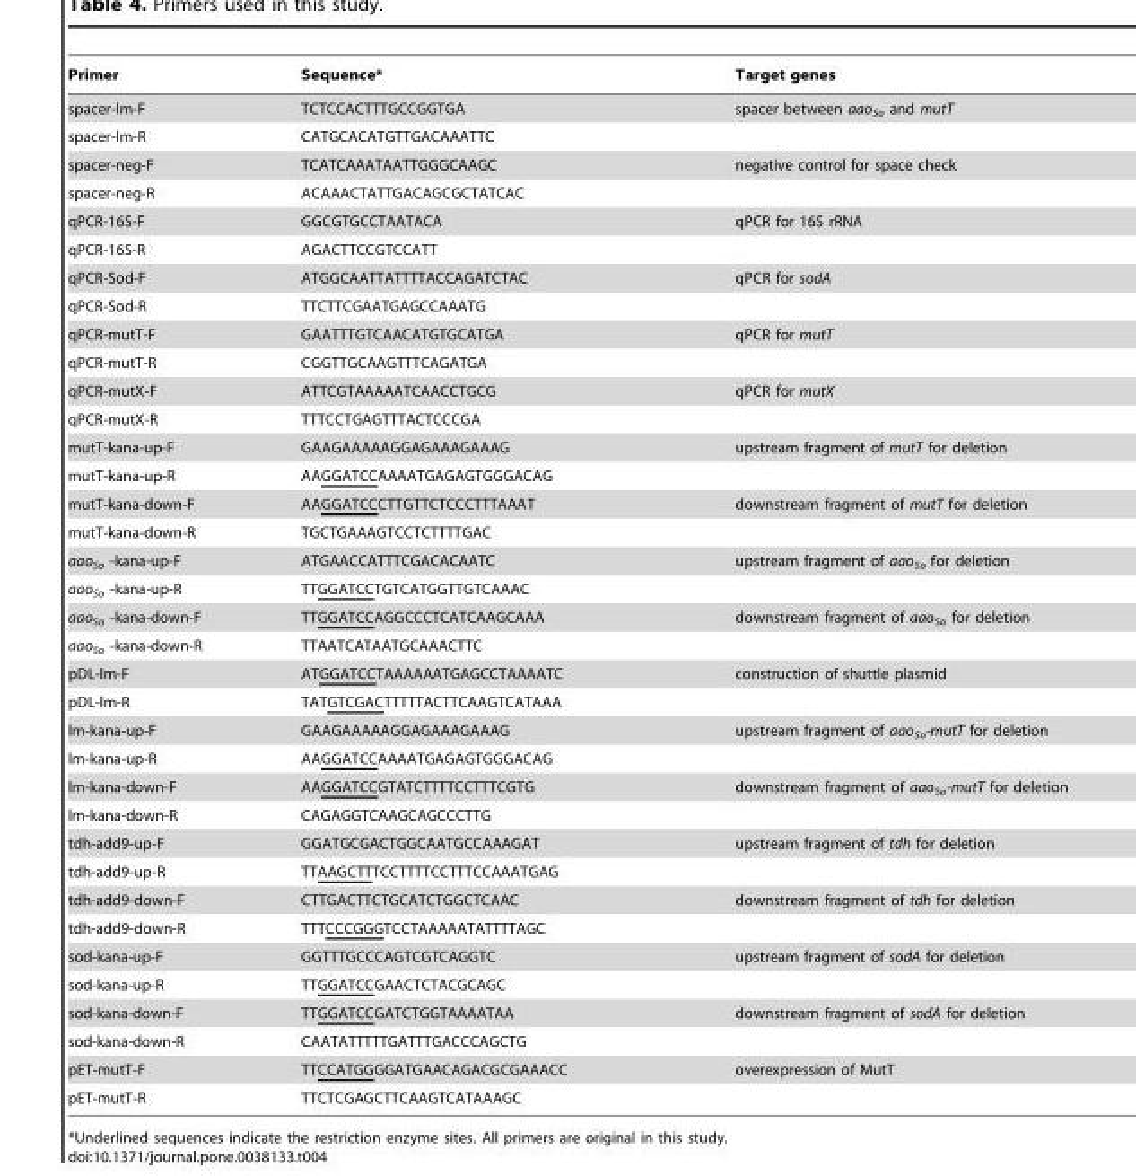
<table><thead><tr><td>Primer</td><td>Sequence*</td><td>Target genes</td></tr></thead><tbody><tr><td>spacer-lm-F</td><td>TCTCCACTTTGCCGGTGA</td><td>spacer between aao<sub>So</sub> and mutT</td></tr><tr><td>spacer-lm-R</td><td>CATGCACATGTTGACAAATTC</td><td></td></tr><tr><td>spacer-neg-F</td><td>TCATCAAATAATTGGGCAAGC</td><td>negative control for space check</td></tr><tr><td>spacer-neg-R</td><td>ACAAACTATTGACAGCGCTATCAC</td><td></td></tr><tr><td>qPCR-16S-F</td><td>GGCGTGCCTAATACA</td><td>qPCR for 16S rRNA</td></tr><tr><td>qPCR-16S-R</td><td>AGACTTCCGTCCATT</td><td></td></tr><tr><td>qPCR-Sod-F</td><td>ATGGCAATTATTTTACCAGATCTAC</td><td>qPCR for sodA</td></tr><tr><td>qPCR-Sod-R</td><td>TTCTTCGAATGAGCCAAATG</td><td></td></tr><tr><td>qPCR-mutT-F</td><td>GAATTTGTCAACATGTGCATGA</td><td>qPCR for mutT</td></tr><tr><td>qPCR-mutT-R</td><td>CGGTTGCAAGTTTCAGATGA</td><td></td></tr><tr><td>qPCR-mutX-F</td><td>ATTCGTAAAAATCAACCTGCG</td><td>qPCR for mutX</td></tr><tr><td>qPCR-mutX-R</td><td>TTTCCTGAGTTTACTCCCGA</td><td></td></tr><tr><td>mutT-kana-up-F</td><td>GAAGAAAAAGGAGAAAGAAAG</td><td>upstream fragment of mutT for deletion</td></tr><tr><td>mutT-kana-up-R</td><td>AAGGATCCAAAATGAGAGTGGGACAG</td><td></td></tr><tr><td>mutT-kana-down-F</td><td>AAGGATCCCTTGTTCTCCCTTTAAAT</td><td>downstream fragment of mutT for deletion</td></tr><tr><td>mutT-kana-down-R</td><td>TGCTGAAAGTCCTCTTTTGAC</td><td></td></tr><tr><td>aao<sub>So</sub> -kana-up-F</td><td>ATGAACCATTTCGACACAATC</td><td>upstream fragment of aao<sub>So</sub> for deletion</td></tr><tr><td>aao<sub>So</sub> -kana-up-R</td><td>TTGGATCCTGTCATGGTTGTCAAAC</td><td></td></tr><tr><td>aao<sub>So</sub> -kana-down-F</td><td>TTGGATCCAGGCCCTCATCAAGCAAA</td><td>downstream fragment of aao<sub>So</sub> for deletion</td></tr><tr><td>aao<sub>So</sub> -kana-down-R</td><td>TTAATCATAATGCAAACTTC</td><td></td></tr><tr><td>pDL-lm-F</td><td>ATGGATCCTAAAAAATGAGCCTAAAATC</td><td>construction of shuttle plasmid</td></tr><tr><td>pDL-lm-R</td><td>TATGTCGACTTTTTACTTCAAGTCATAAA</td><td></td></tr><tr><td>lm-kana-up-F</td><td>GAAGAAAAAGGAGAAAGAAAG</td><td>upstream fragment of aao<sub>So</sub>-mutT for deletion</td></tr><tr><td>lm-kana-up-R</td><td>AAGGATCCAAAATGAGAGTGGGACAG</td><td></td></tr><tr><td>lm-kana-down-F</td><td>AAGGATCCGTATCTTTTCCTTTCGTG</td><td>downstream fragment of aao<sub>So</sub>-mutT for deletion</td></tr><tr><td>lm-kana-down-R</td><td>CAGAGGTCAAGCAGCCCTTG</td><td></td></tr><tr><td>tdh-add9-up-F</td><td>GGATGCGACTGGCAATGCCAAAGAT</td><td>upstream fragment of tdh for deletion</td></tr><tr><td>tdh-add9-up-R</td><td>TTAAGCTTTCCTTTTCCTTTCCAAATGAG</td><td></td></tr><tr><td>tdh-add9-down-F</td><td>CTTGACTTCTGCATCTGGCTCAAC</td><td>downstream fragment of tdh for deletion</td></tr><tr><td>tdh-add9-down-R</td><td>TTTCCCGGGTCCTAAAAATATTTTAGC</td><td></td></tr><tr><td>sod-kana-up-F</td><td>GGTTTGCCCAGTCGTCAGGTC</td><td>upstream fragment of sodA for deletion</td></tr><tr><td>sod-kana-up-R</td><td>TTGGATCCGAACTCTACGCAGC</td><td></td></tr><tr><td>sod-kana-down-F</td><td>TTGGATCCGATCTGGTAAAATAA</td><td>downstream fragment of sodA for deletion</td></tr><tr><td>sod-kana-down-R</td><td>CAATATTTTTGATTTGACCCAGCTG</td><td></td></tr><tr><td>pET-mutT-F</td><td>TTCCATGGGGATGAACAGACGCGAAACC</td><td>overexpression of MutT</td></tr><tr><td>pET-mutT-R</td><td>TTCTCGAGCTTCAAGTCATAAAGC</td><td></td></tr></tbody></table>